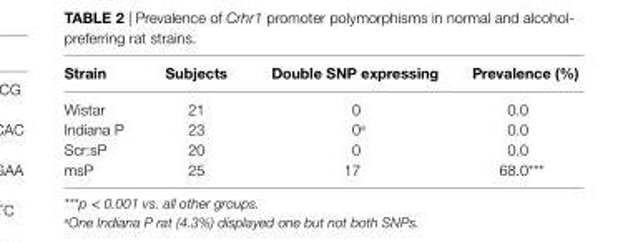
<table><thead><tr><td>strain</td><td>subjects</td><td>Double snP expressing</td><td>Prevalence (%)</td></tr></thead><tbody><tr><td>Wistar</td><td>21</td><td>0</td><td>0.0</td></tr><tr><td>Indiana P</td><td>23</td><td>0<sup>a</sup></td><td>0.0</td></tr><tr><td>Scr:sP</td><td>20</td><td>0</td><td>0.0</td></tr><tr><td>msP</td><td>25</td><td>17</td><td>68.0***</td></tr></tbody></table>